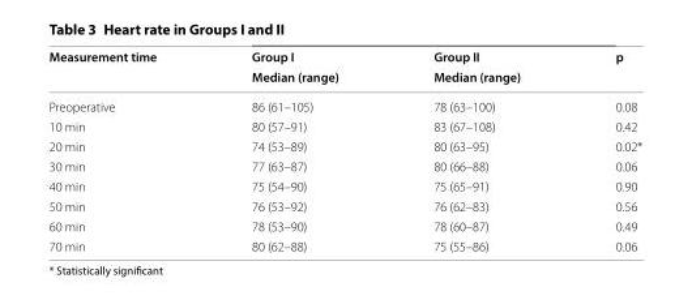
<table><thead><tr><td rowspan="2">Measurement time</td><td rowspan="2">Group I Median (range)</td><td rowspan="2">Group II Median (range)</td><td rowspan="2">p</td></tr><tr></tr></thead><tbody><tr><td>Preoperative</td><td>86 (61–105)</td><td>78 (63–100)</td><td>0.08</td></tr><tr><td>10 min</td><td>80 (57–91)</td><td>83 (67–108)</td><td>0.42</td></tr><tr><td>20 min</td><td>74 (53–89)</td><td>80 (63–95)</td><td>0.02*</td></tr><tr><td>30 min</td><td>77 (63–87)</td><td>80 (66–88)</td><td>0.06</td></tr><tr><td>40 min</td><td>75 (54–90)</td><td>75 (65–91)</td><td>0.90</td></tr><tr><td>50 min</td><td>76 (53–92)</td><td>76 (62–83)</td><td>0.56</td></tr><tr><td>60 min</td><td>78 (53–90)</td><td>78 (60–87)</td><td>0.49</td></tr><tr><td>70 min</td><td>80 (62–88)</td><td>75 (55–86)</td><td>0.06</td></tr></tbody></table>